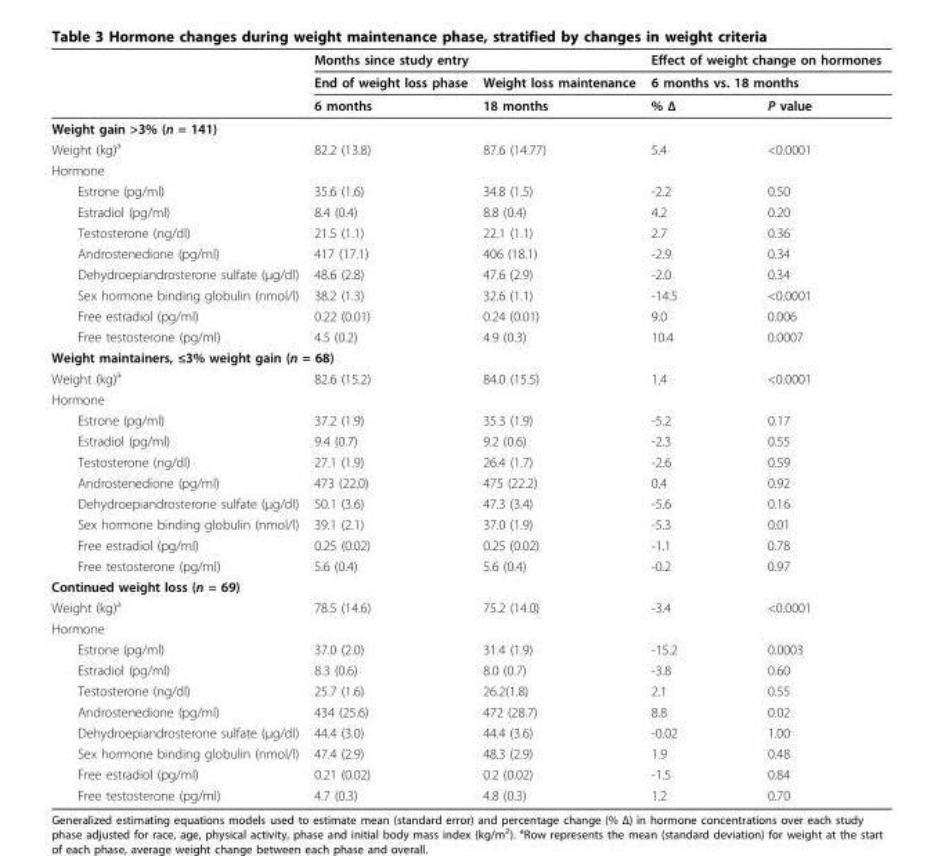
<table><thead><tr><td rowspan="3"></td><td colspan="2">Months since study entry</td><td rowspan="2" colspan="2">Effect of weight change on hormones 6 months vs. 18 months</td></tr><tr><td rowspan="2">End of weight loss phase 6 months</td><td rowspan="2">Weight loss maintenance 18 months</td></tr><tr><td>% Δ</td><td>P value</td></tr></thead><tbody><tr><td colspan="5">Weight gain &gt;3% (n = 141)</td></tr><tr><td>Weight (kg)<sup>a</sup></td><td>82.2 (13.8)</td><td>87.6 (14.77)</td><td>5.4</td><td>&lt;0.0001</td></tr><tr><td colspan="5">Hormone</td></tr><tr><td>Estrone (pg/ml)</td><td>35.6 (1.6)</td><td>34.8 (1.5)</td><td>-2.2</td><td>0.50</td></tr><tr><td>Estradiol (pg/ml)</td><td>8.4 (0.4)</td><td>8.8 (0.4)</td><td>4.2</td><td>0.20</td></tr><tr><td>Testosterone (ng/dl)</td><td>21.5 (1.1)</td><td>22.1 (1.1)</td><td>2.7</td><td>0.36</td></tr><tr><td>Androstenedione (pg/ml)</td><td>417 (17.1)</td><td>406 (18.1)</td><td>-2.9</td><td>0.34</td></tr><tr><td>Dehydroepiandrosterone sulfate (µg/dl)</td><td>48.6 (2.8)</td><td>47.6 (2.9)</td><td>-2.0</td><td>0.34</td></tr><tr><td>Sex hormone binding globulin (nmol/l)</td><td>38.2 (1.3)</td><td>32.6 (1.1)</td><td>-14.5</td><td>&lt;0.0001</td></tr><tr><td>Free estradiol (pg/ml)</td><td>0.22 (0.01)</td><td>0.24 (0.01)</td><td>9.0</td><td>0.006</td></tr><tr><td>Free testosterone (pg/ml)</td><td>4.5 (0.2)</td><td>4.9 (0.3)</td><td>10.4</td><td>0.0007</td></tr><tr><td colspan="5">Weight maintainers, ≤3% weight gain (n = 68)</td></tr><tr><td>Weight (kg)<sup>a</sup></td><td>82.6 (15.2)</td><td>84.0 (15.5)</td><td>1.4</td><td>&lt;0.0001</td></tr><tr><td colspan="5">Hormone</td></tr><tr><td>Estrone (pg/ml)</td><td>37.2 (1.9)</td><td>35.3 (1.9)</td><td>-5.2</td><td>0.17</td></tr><tr><td>Estradiol (pg/ml)</td><td>9.4 (0.7)</td><td>9.2 (0.6)</td><td>-2.3</td><td>0.55</td></tr><tr><td>Testosterone (ng/dl)</td><td>27.1 (1.9)</td><td>26.4 (1.7)</td><td>-2.6</td><td>0.59</td></tr><tr><td>Androstenedione (pg/ml)</td><td>473 (22.0)</td><td>475 (22.2)</td><td>0.4</td><td>0.92</td></tr><tr><td>Dehydroepiandrosterone sulfate (µg/dl)</td><td>50.1 (3.6)</td><td>47.3 (3.4)</td><td>-5.6</td><td>0.16</td></tr><tr><td>Sex hormone binding globulin (nmol/l)</td><td>39.1 (2.1)</td><td>37.0 (1.9)</td><td>-5.3</td><td>0.01</td></tr><tr><td>Free estradiol (pg/ml)</td><td>0.25 (0.02)</td><td>0.25 (0.02)</td><td>-1.1</td><td>0.78</td></tr><tr><td>Free testosterone (pg/ml)</td><td>5.6 (0.4)</td><td>5.6 (0.4)</td><td>-0.2</td><td>0.97</td></tr><tr><td colspan="5">Continued weight loss (n = 69)</td></tr><tr><td>Weight (kg)<sup>a</sup></td><td>78.5 (14.6)</td><td>75.2 (14.0)</td><td>-3.4</td><td>&lt;0.0001</td></tr><tr><td colspan="5">Hormone</td></tr><tr><td>Estrone (pg/ml)</td><td>37.0 (2.0)</td><td>31.4 (1.9)</td><td>-15.2</td><td>0.0003</td></tr><tr><td>Estradiol (pg/ml)</td><td>8.3 (0.6)</td><td>8.0 (0.7)</td><td>-3.8</td><td>0.60</td></tr><tr><td>Testosterone (ng/dl)</td><td>25.7 (1.6)</td><td>26.2(1.8)</td><td>2.1</td><td>0.55</td></tr><tr><td>Androstenedione (pg/ml)</td><td>434 (25.6)</td><td>472 (28.7)</td><td>8.8</td><td>0.02</td></tr><tr><td>Dehydroepiandrosterone sulfate (µg/dl)</td><td>44.4 (3.0)</td><td>44.4 (3.6)</td><td>-0.02</td><td>1.00</td></tr><tr><td>Sex hormone binding globulin (nmol/l)</td><td>47.4 (2.9)</td><td>48.3 (2.9)</td><td>1.9</td><td>0.48</td></tr><tr><td>Free estradiol (pg/ml)</td><td>0.21 (0.02)</td><td>0.2 (0.02)</td><td>-1.5</td><td>0.84</td></tr><tr><td>Free testosterone (pg/ml)</td><td>4.7 (0.3)</td><td>4.8 (0.3)</td><td>1.2</td><td>0.70</td></tr></tbody></table>